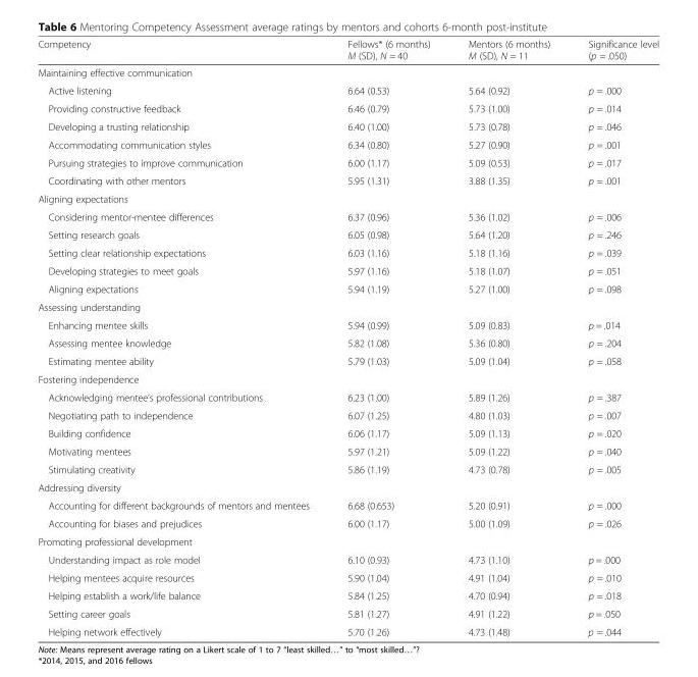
<table><thead><tr><td>Competency</td><td>Fellows* (6 months) M (SD), N = 40</td><td>Mentors (6 months) M (SD), N = 11</td><td>Significance level (p = .050)</td></tr></thead><tbody><tr><td colspan="4">Maintaining effective communication</td></tr><tr><td>Active listening</td><td>6.64 (0.53)</td><td>5.64 (0.92)</td><td>p = .000</td></tr><tr><td>Providing constructive feedback</td><td>6.46 (0.79)</td><td>5.73 (1.00)</td><td>p = .014</td></tr><tr><td>Developing a trusting relationship</td><td>6.40 (1.00)</td><td>5.73 (0.78)</td><td>p = .046</td></tr><tr><td>Accommodating communication styles</td><td>6.34 (0.80)</td><td>5.27 (0.90)</td><td>p = .001</td></tr><tr><td>Pursuing strategies to improve communication</td><td>6.00 (1.17)</td><td>5.09 (0.53)</td><td>p = .017</td></tr><tr><td>Coordinating with other mentors</td><td>5.95 (1.31)</td><td>3.88 (1.35)</td><td>p = .001</td></tr><tr><td colspan="4">Aligning expectations</td></tr><tr><td>Considering mentor-mentee differences</td><td>6.37 (0.96)</td><td>5.36 (1.02)</td><td>p = .006</td></tr><tr><td>Setting research goals</td><td>6.05 (0.98)</td><td>5.64 (1.20)</td><td>p = .246</td></tr><tr><td>Setting clear relationship expectations</td><td>6.03 (1.16)</td><td>5.18 (1.16)</td><td>p = .039</td></tr><tr><td>Developing strategies to meet goals</td><td>5.97 (1.16)</td><td>5.18 (1.07)</td><td>p = .051</td></tr><tr><td>Aligning expectations</td><td>5.94 (1.19)</td><td>5.27 (1.00)</td><td>p = .098</td></tr><tr><td colspan="4">Assessing understanding</td></tr><tr><td>Enhancing mentee skills</td><td>5.94 (0.99)</td><td>5.09 (0.83)</td><td>p = .014</td></tr><tr><td>Assessing mentee knowledge</td><td>5.82 (1.08)</td><td>5.36 (0.80)</td><td>p = .204</td></tr><tr><td>Estimating mentee ability</td><td>5.79 (1.03)</td><td>5.09 (1.04)</td><td>p = .058</td></tr><tr><td colspan="4">Fostering independence</td></tr><tr><td>Acknowledging mentee’s professional contributions</td><td>6.23 (1.00)</td><td>5.89 (1.26)</td><td>p = .387</td></tr><tr><td>Negotiating path to independence</td><td>6.07 (1.25)</td><td>4.80 (1.03)</td><td>p = .007</td></tr><tr><td>Building confidence</td><td>6.06 (1.17)</td><td>5.09 (1.13)</td><td>p = .020</td></tr><tr><td>Motivating mentees</td><td>5.97 (1.21)</td><td>5.09 (1.22)</td><td>p = .040</td></tr><tr><td>Stimulating creativity</td><td>5.86 (1.19)</td><td>4.73 (0.78)</td><td>p = .005</td></tr><tr><td colspan="4">Addressing diversity</td></tr><tr><td>Accounting for different backgrounds of mentors and mentees</td><td>6.68 (0.653)</td><td>5.20 (0.91)</td><td>p = .000</td></tr><tr><td>Accounting for biases and prejudices</td><td>6.00 (1.17)</td><td>5.00 (1.09)</td><td>p = .026</td></tr><tr><td colspan="4">Promoting professional development</td></tr><tr><td>Understanding impact as role model</td><td>6.10 (0.93)</td><td>4.73 (1.10)</td><td>p = .000</td></tr><tr><td>Helping mentees acquire resources</td><td>5.90 (1.04)</td><td>4.91 (1.04)</td><td>p = .010</td></tr><tr><td>Helping establish a work/life balance</td><td>5.84 (1.25)</td><td>4.70 (0.94)</td><td>p = .018</td></tr><tr><td>Setting career goals</td><td>5.81 (1.27)</td><td>4.91 (1.22)</td><td>p = .050</td></tr><tr><td>Helping network effectively</td><td>5.70 (1.26)</td><td>4.73 (1.48)</td><td>p = .044</td></tr></tbody></table>